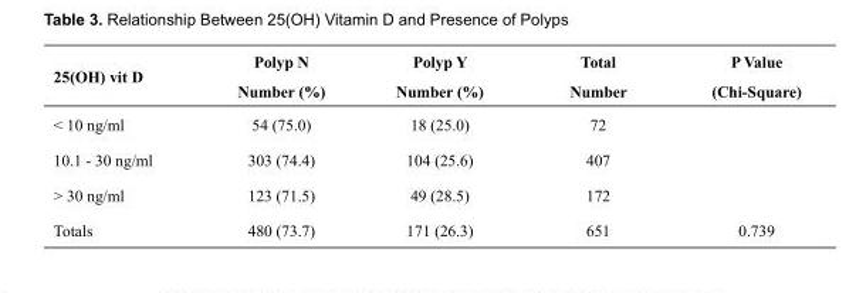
<table><thead><tr><td rowspan="2">25(OH) vit D</td><td rowspan="2">Polyp N Number (%)</td><td rowspan="2">Polyp Y Number (%)</td><td rowspan="2">Total Number</td><td rowspan="2">P Value (Chi-Square)</td></tr><tr></tr></thead><tbody><tr><td>&lt; 10 ng/ml</td><td>54 (75.0)</td><td>18 (25.0)</td><td>72</td><td></td></tr><tr><td>10.1 - 30 ng/ml</td><td>303 (74.4)</td><td>104 (25.6)</td><td>407</td><td></td></tr><tr><td>&gt; 30 ng/ml</td><td>123 (71.5)</td><td>49 (28.5)</td><td>172</td><td></td></tr><tr><td>Totals</td><td>480 (73.7)</td><td>171 (26.3)</td><td>651</td><td>0.739</td></tr></tbody></table>